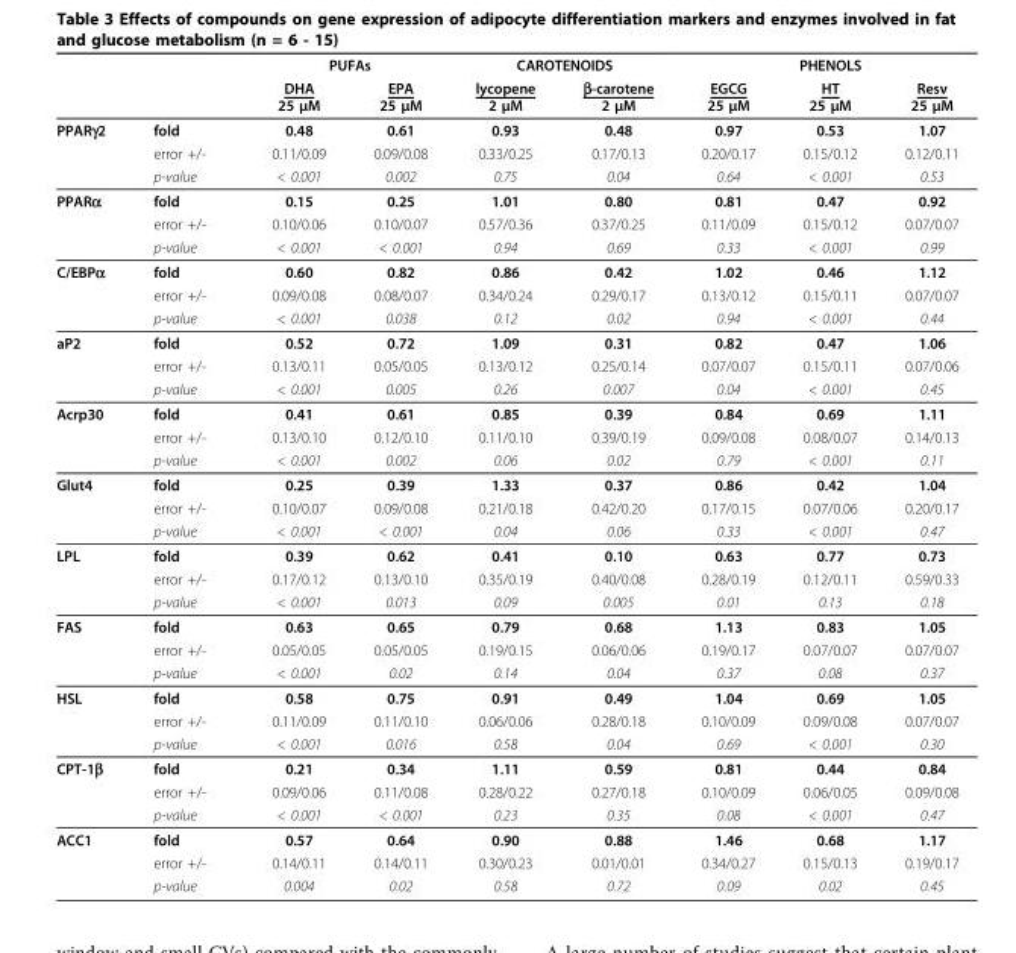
<table><thead><tr><td rowspan="2"></td><td rowspan="2"></td><td colspan="2">PUFAs</td><td colspan="2">CAROTENOIDS</td><td colspan="3">PHENOLS</td></tr><tr><td>DHA 25 μM</td><td>EPA 25 μM</td><td>lycopene 2 μM</td><td>β-carotene 2 μM</td><td>EGCG 25 μM</td><td>HT 25 μM</td><td>Resv 25 μM</td></tr></thead><tbody><tr><td rowspan="3">PPARγ2</td><td>fold</td><td>0.48</td><td>0.61</td><td>0.93</td><td>0.48</td><td>0.97</td><td>0.53</td><td>1.07</td></tr><tr><td>error +/-</td><td>0.11/0.09</td><td>0.09/0.08</td><td>0.33/0.25</td><td>0.17/0.13</td><td>0.20/0.17</td><td>0.15/0.12</td><td>0.12/0.11</td></tr><tr><td>p-value</td><td>&lt; 0.001</td><td>0.002</td><td>0.75</td><td>0.04</td><td>0.64</td><td>&lt; 0.001</td><td>0.53</td></tr><tr><td rowspan="3">PPARα</td><td>fold</td><td>0.15</td><td>0.25</td><td>1.01</td><td>0.80</td><td>0.81</td><td>0.47</td><td>0.92</td></tr><tr><td>error +/-</td><td>0.10/0.06</td><td>0.10/0.07</td><td>0.57/0.36</td><td>0.37/0.25</td><td>0.11/0.09</td><td>0.15/0.12</td><td>0.07/0.07</td></tr><tr><td>p-value</td><td>&lt; 0.001</td><td>&lt; 0.001</td><td>0.94</td><td>0.69</td><td>0.33</td><td>&lt; 0.001</td><td>0.99</td></tr><tr><td rowspan="3">C/EBPα</td><td>fold</td><td>0.60</td><td>0.82</td><td>0.86</td><td>0.42</td><td>1.02</td><td>0.46</td><td>1.12</td></tr><tr><td>error +/-</td><td>0.09/0.08</td><td>0.08/0.07</td><td>0.34/0.24</td><td>0.29/0.17</td><td>0.13/0.12</td><td>0.15/0.11</td><td>0.07/0.07</td></tr><tr><td>p-value</td><td>&lt; 0.001</td><td>0.038</td><td>0.12</td><td>0.02</td><td>0.94</td><td>&lt; 0.001</td><td>0.44</td></tr><tr><td rowspan="3">aP2</td><td>fold</td><td>0.52</td><td>0.72</td><td>1.09</td><td>0.31</td><td>0.82</td><td>0.47</td><td>1.06</td></tr><tr><td>error +/-</td><td>0.13/0.11</td><td>0.05/0.05</td><td>0.13/0.12</td><td>0.25/0.14</td><td>0.07/0.07</td><td>0.15/0.11</td><td>0.07/0.06</td></tr><tr><td>p-value</td><td>&lt; 0.001</td><td>0.005</td><td>0.26</td><td>0.007</td><td>0.04</td><td>&lt; 0.001</td><td>0.45</td></tr><tr><td rowspan="3">Acrp30</td><td>fold</td><td>0.41</td><td>0.61</td><td>0.85</td><td>0.39</td><td>0.84</td><td>0.69</td><td>1.11</td></tr><tr><td>error +/-</td><td>0.13/0.10</td><td>0.12/0.10</td><td>0.11/0.10</td><td>0.39/0.19</td><td>0.09/0.08</td><td>0.08/0.07</td><td>0.14/0.13</td></tr><tr><td>p-value</td><td>&lt; 0.001</td><td>0.002</td><td>0.06</td><td>0.02</td><td>0.79</td><td>&lt; 0.001</td><td>0.11</td></tr><tr><td rowspan="3">Glut4</td><td>fold</td><td>0.25</td><td>0.39</td><td>1.33</td><td>0.37</td><td>0.86</td><td>0.42</td><td>1.04</td></tr><tr><td>error +/-</td><td>0.10/0.07</td><td>0.09/0.08</td><td>0.21/0.18</td><td>0.42/0.20</td><td>0.17/0.15</td><td>0.07/0.06</td><td>0.20/0.17</td></tr><tr><td>p-value</td><td>&lt; 0.001</td><td>&lt; 0.001</td><td>0.04</td><td>0.06</td><td>0.33</td><td>&lt; 0.001</td><td>0.47</td></tr><tr><td rowspan="3">LPL</td><td>fold</td><td>0.39</td><td>0.62</td><td>0.41</td><td>0.10</td><td>0.63</td><td>0.77</td><td>0.73</td></tr><tr><td>error +/-</td><td>0.17/0.12</td><td>0.13/0.10</td><td>0.35/0.19</td><td>0.40/0.08</td><td>0.28/0.19</td><td>0.12/0.11</td><td>0.59/0.33</td></tr><tr><td>p-value</td><td>&lt; 0.001</td><td>0.013</td><td>0.09</td><td>0.005</td><td>0.01</td><td>0.13</td><td>0.18</td></tr><tr><td rowspan="3">FAS</td><td>fold</td><td>0.63</td><td>0.65</td><td>0.79</td><td>0.68</td><td>1.13</td><td>0.83</td><td>1.05</td></tr><tr><td>error +/-</td><td>0.05/0.05</td><td>0.05/0.05</td><td>0.19/0.15</td><td>0.06/0.06</td><td>0.19/0.17</td><td>0.07/0.07</td><td>0.07/0.07</td></tr><tr><td>p-value</td><td>&lt; 0.001</td><td>0.02</td><td>0.14</td><td>0.04</td><td>0.37</td><td>0.08</td><td>0.37</td></tr><tr><td rowspan="3">HSL</td><td>fold</td><td>0.58</td><td>0.75</td><td>0.91</td><td>0.49</td><td>1.04</td><td>0.69</td><td>1.05</td></tr><tr><td>error +/-</td><td>0.11/0.09</td><td>0.11/0.10</td><td>0.06/0.06</td><td>0.28/0.18</td><td>0.10/0.09</td><td>0.09/0.08</td><td>0.07/0.07</td></tr><tr><td>p-value</td><td>&lt; 0.001</td><td>0.016</td><td>0.58</td><td>0.04</td><td>0.69</td><td>&lt; 0.001</td><td>0.30</td></tr><tr><td rowspan="3">CPT-1β</td><td>fold</td><td>0.21</td><td>0.34</td><td>1.11</td><td>0.59</td><td>0.81</td><td>0.44</td><td>0.84</td></tr><tr><td>error +/-</td><td>0.09/0.06</td><td>0.11/0.08</td><td>0.28/0.22</td><td>0.27/0.18</td><td>0.10/0.09</td><td>0.06/0.05</td><td>0.09/0.08</td></tr><tr><td>p-value</td><td>&lt; 0.001</td><td>&lt; 0.001</td><td>0.23</td><td>0.35</td><td>0.08</td><td>&lt; 0.001</td><td>0.47</td></tr><tr><td rowspan="3">ACC1</td><td>fold</td><td>0.57</td><td>0.64</td><td>0.90</td><td>0.88</td><td>1.46</td><td>0.68</td><td>1.17</td></tr><tr><td>error +/-</td><td>0.14/0.11</td><td>0.14/0.11</td><td>0.30/0.23</td><td>0.01/0.01</td><td>0.34/0.27</td><td>0.15/0.13</td><td>0.19/0.17</td></tr><tr><td>p-value</td><td>0.004</td><td>0.02</td><td>0.58</td><td>0.72</td><td>0.09</td><td>0.02</td><td>0.45</td></tr></tbody></table>